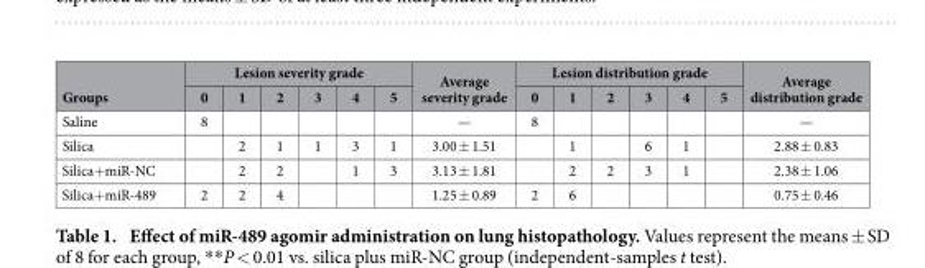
<table><thead><tr><td rowspan="2">Groups</td><td colspan="6">Lesion severity grade</td><td rowspan="2">Average severity grade</td><td colspan="6">Lesion distribution grade</td><td rowspan="2">Average distribution grade</td></tr><tr><td>0</td><td>1</td><td>2</td><td>3</td><td>4</td><td>5</td><td>0</td><td>1</td><td>2</td><td>3</td><td>4</td><td>5</td></tr></thead><tbody><tr><td>Saline</td><td>8</td><td></td><td></td><td></td><td></td><td></td><td>—</td><td>8</td><td></td><td></td><td></td><td></td><td></td><td>—</td></tr><tr><td>Silica</td><td></td><td>2</td><td>1</td><td>1</td><td>3</td><td>1</td><td>3.00 ± 1.51</td><td></td><td>1</td><td></td><td>6</td><td>1</td><td></td><td>2.88 ± 0.83</td></tr><tr><td>Silica+ miR-NC</td><td></td><td>2</td><td>2</td><td></td><td>1</td><td>3</td><td>3.13 ± 1.81</td><td></td><td>2</td><td>2</td><td>3</td><td>1</td><td></td><td>2.38 ± 1.06</td></tr><tr><td>Silica+ miR-489</td><td>2</td><td>2</td><td>4</td><td></td><td></td><td></td><td>1.25 ± 0.89</td><td>2</td><td>6</td><td></td><td></td><td></td><td></td><td>0.75 ± 0.46</td></tr></tbody></table>